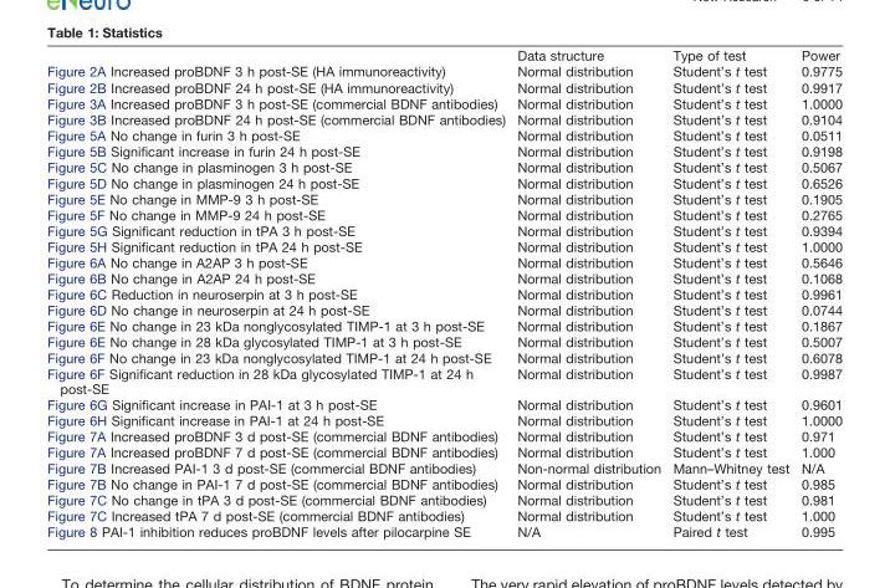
<table><thead><tr><td></td><td>Data structure</td><td>Type of test</td><td>Power</td></tr></thead><tbody><tr><td>Figure 2A Increased proBDNF 3 h post-SE (HA immunoreactivity)</td><td>Normal distribution</td><td>Student’s t test</td><td>0.9775</td></tr><tr><td>Figure 2B Increased proBDNF 24 h post-SE (HA immunoreactivity)</td><td>Normal distribution</td><td>Student’s t test</td><td>0.9917</td></tr><tr><td>Figure 3A Increased proBDNF 3 h post-SE (commercial BDNF antibodies)</td><td>Normal distribution</td><td>Student’s t test</td><td>1.0000</td></tr><tr><td>Figure 3B Increased proBDNF 24 h post-SE (commercial BDNF antibodies)</td><td>Normal distribution</td><td>Student’s t test</td><td>0.9104</td></tr><tr><td>Figure 5A No change in furin 3 h post-SE</td><td>Normal distribution</td><td>Student’s t test</td><td>0.0511</td></tr><tr><td>Figure 5B Significant increase in furin 24 h post-SE</td><td>Normal distribution</td><td>Student’s t test</td><td>0.9198</td></tr><tr><td>Figure 5C No change in plasminogen 3 h post-SE</td><td>Normal distribution</td><td>Student’s t test</td><td>0.5067</td></tr><tr><td>Figure 5D No change in plasminogen 24 h post-SE</td><td>Normal distribution</td><td>Student’s t test</td><td>0.6526</td></tr><tr><td>Figure 5E No change in MMP-9 3 h post-SE</td><td>Normal distribution</td><td>Student’s t test</td><td>0.1905</td></tr><tr><td>Figure 5F No change in MMP-9 24 h post-SE</td><td>Normal distribution</td><td>Student’s t test</td><td>0.2765</td></tr><tr><td>Figure 5G Significant reduction in tPA 3 h post-SE</td><td>Normal distribution</td><td>Student’s t test</td><td>0.9394</td></tr><tr><td>Figure 5H Significant reduction in tPA 24 h post-SE</td><td>Normal distribution</td><td>Student’s t test</td><td>1.0000</td></tr><tr><td>Figure 6A No change in A2AP 3 h post-SE</td><td>Normal distribution</td><td>Student’s t test</td><td>0.5646</td></tr><tr><td>Figure 6B No change in A2AP 24 h post-SE</td><td>Normal distribution</td><td>Student’s t test</td><td>0.1068</td></tr><tr><td>Figure 6C Reduction in neuroserpin at 3 h post-SE</td><td>Normal distribution</td><td>Student’s t test</td><td>0.9961</td></tr><tr><td>Figure 6D No change in neuroserpin at 24 h post-SE</td><td>Normal distribution</td><td>Student’s t test</td><td>0.0744</td></tr><tr><td>Figure 6E No change in 23 kDa nonglycosylated TIMP-1 at 3 h post-SE</td><td>Normal distribution</td><td>Student’s t test</td><td>0.1867</td></tr><tr><td>Figure 6E No change in 28 kDa glycosylated TIMP-1 at 3 h post-SE</td><td>Normal distribution</td><td>Student’s t test</td><td>0.5007</td></tr><tr><td>Figure 6F No change in 23 kDa nonglycosylated TIMP-1 at 24 h post-SE</td><td>Normal distribution</td><td>Student’s t test</td><td>0.6078</td></tr><tr><td>Figure 6F Significant reduction in 28 kDa glycosylated TIMP-1 at 24 h post-SE</td><td>Normal distribution</td><td>Student’s t test</td><td>0.9987</td></tr><tr><td>Figure 6G Significant increase in PAI-1 at 3 h post-SE</td><td>Normal distribution</td><td>Student’s t test</td><td>0.9601</td></tr><tr><td>Figure 6H Significant increase in PAI-1 at 24 h post-SE</td><td>Normal distribution</td><td>Student’s t test</td><td>1.0000</td></tr><tr><td>Figure 7A Increased proBDNF 3 d post-SE (commercial BDNF antibodies)</td><td>Normal distribution</td><td>Student’s t test</td><td>0.971</td></tr><tr><td>Figure 7A Increased proBDNF 7 d post-SE (commercial BDNF antibodies)</td><td>Normal distribution</td><td>Student’s t test</td><td>1.000</td></tr><tr><td>Figure 7B Increased PAI-1 3 d post-SE (commercial BDNF antibodies)</td><td>Non-normal distribution</td><td>Mann–Whitney test</td><td>N/A</td></tr><tr><td>Figure 7B No change in PAI-1 7 d post-SE (commercial BDNF antibodies)</td><td>Normal distribution</td><td>Student’s t test</td><td>0.985</td></tr><tr><td>Figure 7C No change in tPA 3 d post-SE (commercial BDNF antibodies)</td><td>Normal distribution</td><td>Student’s t test</td><td>0.981</td></tr><tr><td>Figure 7C Increased tPA 7 d post-SE (commercial BDNF antibodies)</td><td>Normal distribution</td><td>Student’s t test</td><td>1.000</td></tr><tr><td>Figure 8 PAI-1 inhibition reduces proBDNF levels after pilocarpine SE</td><td>N/A</td><td>Paired t test</td><td>0.995</td></tr></tbody></table>